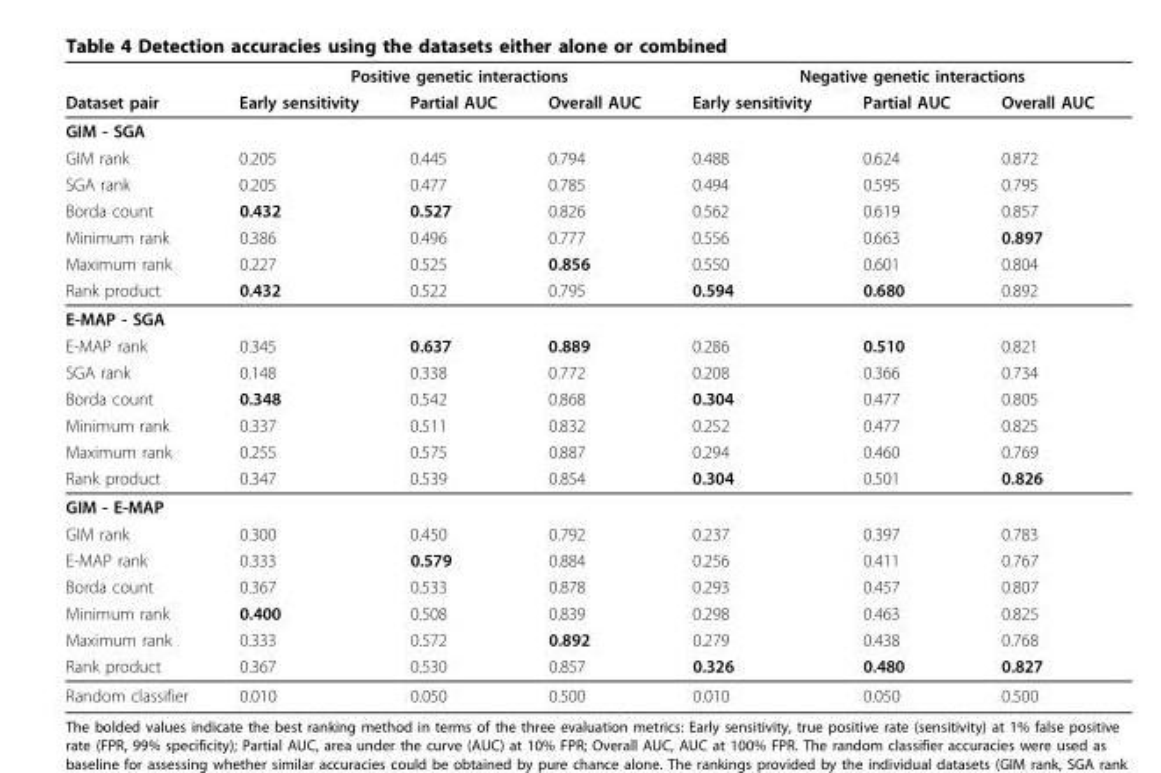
<table><thead><tr><td rowspan="2">Dataset pair</td><td colspan="3">Positive genetic interactions</td><td colspan="3">Negative genetic interactions</td></tr><tr><td>Early sensitivity</td><td>Partial AUC</td><td>Overall AUC</td><td>Early sensitivity</td><td>Partial AUC</td><td>Overall AUC</td></tr></thead><tbody><tr><td colspan="7">GIM - SGA</td></tr><tr><td>GIM rank</td><td>0.205</td><td>0.445</td><td>0.794</td><td>0.488</td><td>0.624</td><td>0.872</td></tr><tr><td>SGA rank</td><td>0.205</td><td>0.477</td><td>0.785</td><td>0.494</td><td>0.595</td><td>0.795</td></tr><tr><td>Borda count</td><td>0.432</td><td>0.527</td><td>0.826</td><td>0.562</td><td>0.619</td><td>0.857</td></tr><tr><td>Minimum rank</td><td>0.386</td><td>0.496</td><td>0.777</td><td>0.556</td><td>0.663</td><td>0.897</td></tr><tr><td>Maximum rank</td><td>0.227</td><td>0.525</td><td>0.856</td><td>0.550</td><td>0.601</td><td>0.804</td></tr><tr><td>Rank product</td><td>0.432</td><td>0.522</td><td>0.795</td><td>0.594</td><td>0.680</td><td>0.892</td></tr><tr><td colspan="7">E-MAP - SGA</td></tr><tr><td>E-MAP rank</td><td>0.345</td><td>0.637</td><td>0.889</td><td>0.286</td><td>0.510</td><td>0.821</td></tr><tr><td>SGA rank</td><td>0.148</td><td>0.338</td><td>0.772</td><td>0.208</td><td>0.366</td><td>0.734</td></tr><tr><td>Borda count</td><td>0.348</td><td>0.542</td><td>0.868</td><td>0.304</td><td>0.477</td><td>0.805</td></tr><tr><td>Minimum rank</td><td>0.337</td><td>0.511</td><td>0.832</td><td>0.252</td><td>0.477</td><td>0.825</td></tr><tr><td>Maximum rank</td><td>0.255</td><td>0.575</td><td>0.887</td><td>0.294</td><td>0.460</td><td>0.769</td></tr><tr><td>Rank product</td><td>0.347</td><td>0.539</td><td>0.854</td><td>0.304</td><td>0.501</td><td>0.826</td></tr><tr><td colspan="7">GIM - E-MAP</td></tr><tr><td>GIM rank</td><td>0.300</td><td>0.450</td><td>0.792</td><td>0.237</td><td>0.397</td><td>0.783</td></tr><tr><td>E-MAP rank</td><td>0.333</td><td>0.579</td><td>0.884</td><td>0.256</td><td>0.411</td><td>0.767</td></tr><tr><td>Borda count</td><td>0.367</td><td>0.533</td><td>0.878</td><td>0.293</td><td>0.457</td><td>0.807</td></tr><tr><td>Minimum rank</td><td>0.400</td><td>0.508</td><td>0.839</td><td>0.298</td><td>0.463</td><td>0.825</td></tr><tr><td>Maximum rank</td><td>0.333</td><td>0.572</td><td>0.892</td><td>0.279</td><td>0.438</td><td>0.768</td></tr><tr><td>Rank product</td><td>0.367</td><td>0.530</td><td>0.857</td><td>0.326</td><td>0.480</td><td>0.827</td></tr><tr><td>Random classifier</td><td>0.010</td><td>0.050</td><td>0.500</td><td>0.010</td><td>0.050</td><td>0.500</td></tr></tbody></table>